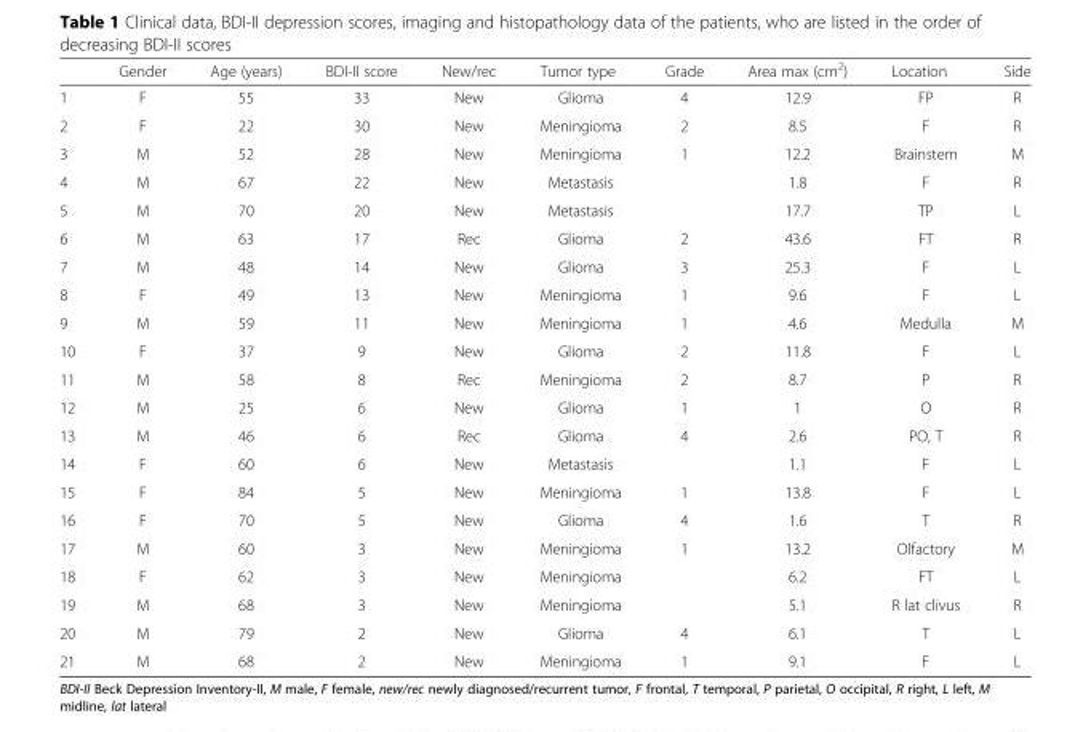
<table><thead><tr><td></td><td>Gender</td><td>Age (years)</td><td>BDI-II score</td><td>New/rec</td><td>Tumor type</td><td>Grade</td><td>Area max (cm<sup>2</sup>)</td><td>Location</td><td>Side</td></tr></thead><tbody><tr><td>1</td><td>F</td><td>55</td><td>33</td><td>New</td><td>Glioma</td><td>4</td><td>12.9</td><td>FP</td><td>R</td></tr><tr><td>2</td><td>F</td><td>22</td><td>30</td><td>New</td><td>Meningioma</td><td>2</td><td>8.5</td><td>F</td><td>R</td></tr><tr><td>3</td><td>M</td><td>52</td><td>28</td><td>New</td><td>Meningioma</td><td>1</td><td>12.2</td><td>Brainstem</td><td>M</td></tr><tr><td>4</td><td>M</td><td>67</td><td>22</td><td>New</td><td>Metastasis</td><td></td><td>1.8</td><td>F</td><td>R</td></tr><tr><td>5</td><td>M</td><td>70</td><td>20</td><td>New</td><td>Metastasis</td><td></td><td>17.7</td><td>TP</td><td>L</td></tr><tr><td>6</td><td>M</td><td>63</td><td>17</td><td>Rec</td><td>Glioma</td><td>2</td><td>43.6</td><td>FT</td><td>R</td></tr><tr><td>7</td><td>M</td><td>48</td><td>14</td><td>New</td><td>Glioma</td><td>3</td><td>25.3</td><td>F</td><td>L</td></tr><tr><td>8</td><td>F</td><td>49</td><td>13</td><td>New</td><td>Meningioma</td><td>1</td><td>9.6</td><td>F</td><td>L</td></tr><tr><td>9</td><td>M</td><td>59</td><td>11</td><td>New</td><td>Meningioma</td><td>1</td><td>4.6</td><td>Medulla</td><td>M</td></tr><tr><td>10</td><td>F</td><td>37</td><td>9</td><td>New</td><td>Glioma</td><td>2</td><td>11.8</td><td>F</td><td>L</td></tr><tr><td>11</td><td>M</td><td>58</td><td>8</td><td>Rec</td><td>Meningioma</td><td>2</td><td>8.7</td><td>P</td><td>R</td></tr><tr><td>12</td><td>M</td><td>25</td><td>6</td><td>New</td><td>Glioma</td><td>1</td><td>1</td><td>O</td><td>R</td></tr><tr><td>13</td><td>M</td><td>46</td><td>6</td><td>Rec</td><td>Glioma</td><td>4</td><td>2.6</td><td>PO, T</td><td>R</td></tr><tr><td>14</td><td>F</td><td>60</td><td>6</td><td>New</td><td>Metastasis</td><td></td><td>1.1</td><td>F</td><td>L</td></tr><tr><td>15</td><td>F</td><td>84</td><td>5</td><td>New</td><td>Meningioma</td><td>1</td><td>13.8</td><td>F</td><td>L</td></tr><tr><td>16</td><td>F</td><td>70</td><td>5</td><td>New</td><td>Glioma</td><td>4</td><td>1.6</td><td>T</td><td>R</td></tr><tr><td>17</td><td>M</td><td>60</td><td>3</td><td>New</td><td>Meningioma</td><td>1</td><td>13.2</td><td>Olfactory</td><td>M</td></tr><tr><td>18</td><td>F</td><td>62</td><td>3</td><td>New</td><td>Meningioma</td><td></td><td>6.2</td><td>FT</td><td>L</td></tr><tr><td>19</td><td>M</td><td>68</td><td>3</td><td>New</td><td>Meningioma</td><td></td><td>5.1</td><td>R lat clivus</td><td>R</td></tr><tr><td>20</td><td>M</td><td>79</td><td>2</td><td>New</td><td>Glioma</td><td>4</td><td>6.1</td><td>T</td><td>L</td></tr><tr><td>21</td><td>M</td><td>68</td><td>2</td><td>New</td><td>Meningioma</td><td>1</td><td>9.1</td><td>F</td><td>L</td></tr></tbody></table>